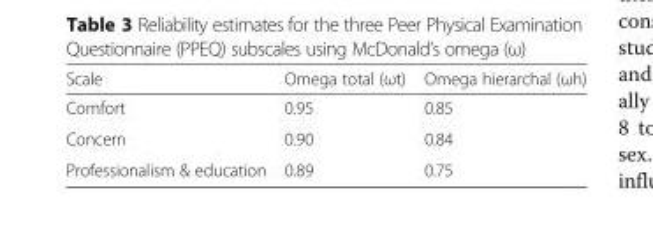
<table><thead><tr><td>Scale</td><td>Omega total (ωt)</td><td>Omega hierarchal (ωh)</td></tr></thead><tbody><tr><td>Comfort</td><td>0.95</td><td>0.85</td></tr><tr><td>Concern</td><td>0.90</td><td>0.84</td></tr><tr><td>Professionalism &amp; education</td><td>0.89</td><td>0.75</td></tr></tbody></table>